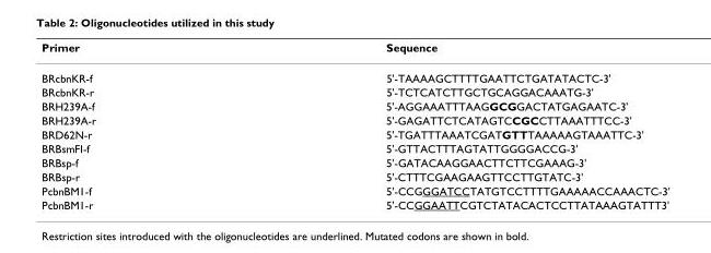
<table><thead><tr><td>Primer</td><td>Sequence</td></tr></thead><tbody><tr><td>BRcbnKR-f</td><td>5&#x27;-TAAAAGCTTTTGAATTCTGATATACTC-3&#x27;</td></tr><tr><td>BRcbnKR-r</td><td>5&#x27;-TCTCATCTTGCTGCAGGACAAATG-3&#x27;</td></tr><tr><td>BRH239A-f</td><td>5&#x27;-AGGAAATTTAAGGCGGACTATGAGAATC-3&#x27;</td></tr><tr><td>BRH239A-r</td><td>5&#x27;-GAGATTCTCATAGTCCGCCTTAAATTTCC-3&#x27;</td></tr><tr><td>BRD62N-r</td><td>5&#x27;-TGATTTAAATCGATGTTTAAAAAGTAAATTC-3&#x27;</td></tr><tr><td>BRBsmFI-f</td><td>5&#x27;-GTTACTTTAGTATTGGGGACCG-3&#x27;</td></tr><tr><td>BRBsp-f</td><td>5&#x27;-GATACAAGGAACTTCTTCGAAAG-3&#x27;</td></tr><tr><td>BRBsp-r</td><td>5&#x27;-CTTTCGAAGAAGTTCCTTGTATC-3&#x27;</td></tr><tr><td>PcbnBM1-f</td><td>5&#x27;-CCGGGATCCTATGTCCTTTTGAAAAACCAAACTC-3&#x27;</td></tr><tr><td>PcbnBM1-r</td><td>5&#x27;-CCGGAATTCGTCTATACACTCCTTATAAAGTATTT3&#x27;</td></tr></tbody></table>